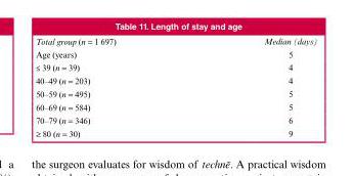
<table><thead><tr><td>Total group (n = 1 697)</td><td>Median (days)</td></tr></thead><tbody><tr><td>Age (years)</td><td>5</td></tr><tr><td>≤ 39 (n = 39)</td><td>4</td></tr><tr><td>40–49 (n = 203)</td><td>4</td></tr><tr><td>50–59 (n = 495)</td><td>5</td></tr><tr><td>60–69 (n = 584)</td><td>5</td></tr><tr><td>70–79 (n = 346)</td><td>6</td></tr><tr><td>≥ 80 (n = 30)</td><td>9</td></tr></tbody></table>